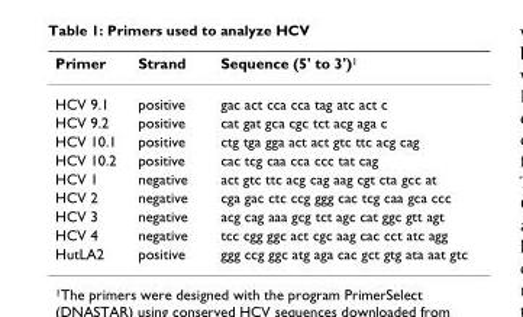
<table><thead><tr><td>Primer</td><td>Strand</td><td>Sequence (5&#x27; to 3&#x27;)<sup>1</sup></td></tr></thead><tbody><tr><td>HCV 9.1</td><td>positive</td><td>gac act cca cca tag atc act c</td></tr><tr><td>HCV 9.2</td><td>positive</td><td>cat gat gca cgc tct acg aga c</td></tr><tr><td>HCV 10.1</td><td>positive</td><td>ctg tga gga act act gtc ttc acg cag</td></tr><tr><td>HCV 10.2</td><td>positive</td><td>cac tcg caa cca ccc tat cag</td></tr><tr><td>HCV 1</td><td>negative</td><td>act gtc ttc acg cag aag cgt cta gcc at</td></tr><tr><td>HCV 2</td><td>negative</td><td>cga gac ctc ccg ggg cac tcg caa gca ccc</td></tr><tr><td>HCV 3</td><td>negative</td><td>acg cag aaa gcg tct agc cat ggc gtt agt</td></tr><tr><td>HCV 4</td><td>negative</td><td>tcc cgg ggc act cgc aag cac cct atc agg</td></tr><tr><td>HutLA2</td><td>positive</td><td>ggg ccg ggc atg aga cac gct gtg ata aat gtc</td></tr></tbody></table>